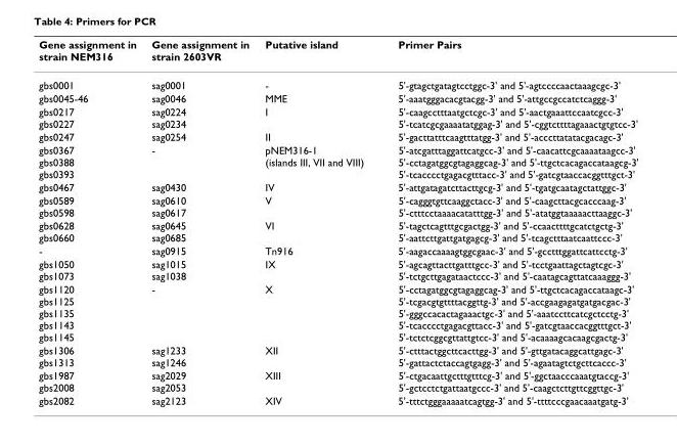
<table><thead><tr><td>Gene assignment in strain NEM316</td><td>Gene assignment in strain 2603VR</td><td>Putative island</td><td>Primer Pairs</td></tr></thead><tbody><tr><td>gbs0001</td><td>sag0001</td><td>-</td><td>5&#x27;-gtagctgatagtcctggc-3&#x27; and 5&#x27;-agtccccaactaaagcgc-3&#x27;</td></tr><tr><td>gbs0045-46</td><td>sag0046</td><td>MME</td><td>5&#x27;-aaatgggacacgtacgg-3&#x27; and 5&#x27;-attgccgccatctcaggg-3&#x27;</td></tr><tr><td>gbs0217 gbs0227</td><td>sag0224 sag0234</td><td>I</td><td>5&#x27;-caagcctttaatgctcgc-3&#x27; and 5&#x27;-aactgaaattccaatcgcc-3&#x27; 5&#x27;-tcatcgcgaaaatatggag-3&#x27; and 5&#x27;-cggtcttttagaaactgtgtcc-3&#x27;</td></tr><tr><td>gbs0247</td><td>sag0254</td><td>II</td><td>5&#x27;-gacttatttcaagtttatgg-3&#x27; and 5&#x27;-acccttatatacgacagc-3&#x27;</td></tr><tr><td>gbs0367 gbs0388 gbs0393</td><td>-</td><td>pNEM316-1 (islands III, VII and VIII)</td><td>5&#x27;-atcgatttaggattcatgcc-3&#x27; and 5&#x27;-caacattcgcaaaataagcc-3&#x27; 5&#x27;-cctagatggcgtagaggcag-3&#x27; and 5&#x27;-ttgctcacagaccataagcg-3&#x27; 5&#x27;-tcacccctgagacgtttacc-3&#x27; and 5&#x27;-gatcgtaaccacggtttgct-3&#x27;</td></tr><tr><td>gbs0467</td><td>sag0430</td><td>IV</td><td>5&#x27;-attgatagatcttacttgcg-3&#x27; and 5&#x27;-tgatgcaatagctattggc-3&#x27;</td></tr><tr><td>gbs0589 gbs0598</td><td>sag0610 sag0617</td><td>V</td><td>5&#x27;-cagggtgttcaaggctacc-3&#x27; and 5&#x27;-caagcttacgcacccaag-3&#x27; 5&#x27;-ctttcctaaaacatatttgg-3&#x27; and 5&#x27;-atatggtaaaaacttaaggc-3&#x27;</td></tr><tr><td>gbs0628 gbs0660</td><td>sag0645 sag0685</td><td>VI</td><td>5&#x27;-tagctcagtttgcgactgg-3&#x27; and 5&#x27;-ccaacttttgcatctgctg-3&#x27; 5&#x27;-aattcttgattgatgagcg-3&#x27; and 5&#x27;-tcagctttaatcaattccc-3&#x27;</td></tr><tr><td>-</td><td>sag0915</td><td>Tn916</td><td>5&#x27;-aagaccaaaagtggcgaac-3&#x27; and 5&#x27;-gcctttggattcattcctg-3&#x27;</td></tr><tr><td>gbs1050 gbs1073</td><td>sag1015 sag1038</td><td>IX</td><td>5&#x27;-agcagttacttgatttgcc-3&#x27; and 5&#x27;-tcctgaattagctagtcgc-3&#x27; 5&#x27;-tctgcttgagataactccc-3&#x27; and 5&#x27;-caatagcagttatcaaaggg-3&#x27;</td></tr><tr><td>gbs1120 gbs1125 gbs1135 gbs1143 gbs1145</td><td>-</td><td>X</td><td>5&#x27;-cctagatggcgtagaggcag-3&#x27; and 5&#x27;-ttgctcacagaccataagc-3&#x27; 5&#x27;-tcgacgtgttttacggttg-3&#x27; and 5&#x27;-accgaagagatgatgacgac-3&#x27; 5&#x27;-gggccacactagaaactgc-3&#x27; and 5&#x27;-aaatccttcatcgctcctg-3&#x27; 5&#x27;-tcacccctgagacgttacc-3&#x27; and 5&#x27;-gatcgtaaccacggtttgct-3&#x27; 5&#x27;-tctctcggcgttattgtcc-3&#x27; and 5&#x27;-acaaaagcacaagcgactg-3&#x27;</td></tr><tr><td>gbs1306 gbs1313</td><td>sag1233 sag1246</td><td>XII</td><td>5&#x27;-ctttactggcttcacttgg-3&#x27; and 5&#x27;-gttgatacaggcattgagc-3&#x27; 5&#x27;-gattactctaccagtgagg-3&#x27; and 5&#x27;-agaatagtctgcttcaccc-3&#x27;</td></tr><tr><td>gbs1987 gbs2008</td><td>sag2029 sag2053</td><td>XIII</td><td>5&#x27;-ctgacaattgctttgtttcg-3&#x27; and 5&#x27;-ggctaacccaaatgtaccg-3&#x27; 5&#x27;-gctcctctgattaatgccc-3&#x27; and 5&#x27;-caagctcttgttcggttgc-3&#x27;</td></tr><tr><td>gbs2082</td><td>sag2123</td><td>XIV</td><td>5&#x27;-tttctgggaaaaatcagtgg-3&#x27; and 5&#x27;-ttttcccgaacaaatgatg-3&#x27;</td></tr></tbody></table>